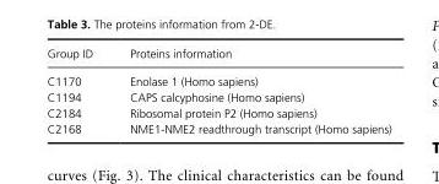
<table><thead><tr><td>Group ID</td><td>Proteins information</td></tr></thead><tbody><tr><td>C1170</td><td>Enolase 1 (Homo sapiens)</td></tr><tr><td>C1194</td><td>CAPS calcyphosine (Homo sapiens)</td></tr><tr><td>C2184</td><td>Ribosomal protein P2 (Homo sapiens)</td></tr><tr><td>C2168</td><td>NME1- NME2 readthrough transcript (Homo sapiens)</td></tr></tbody></table>